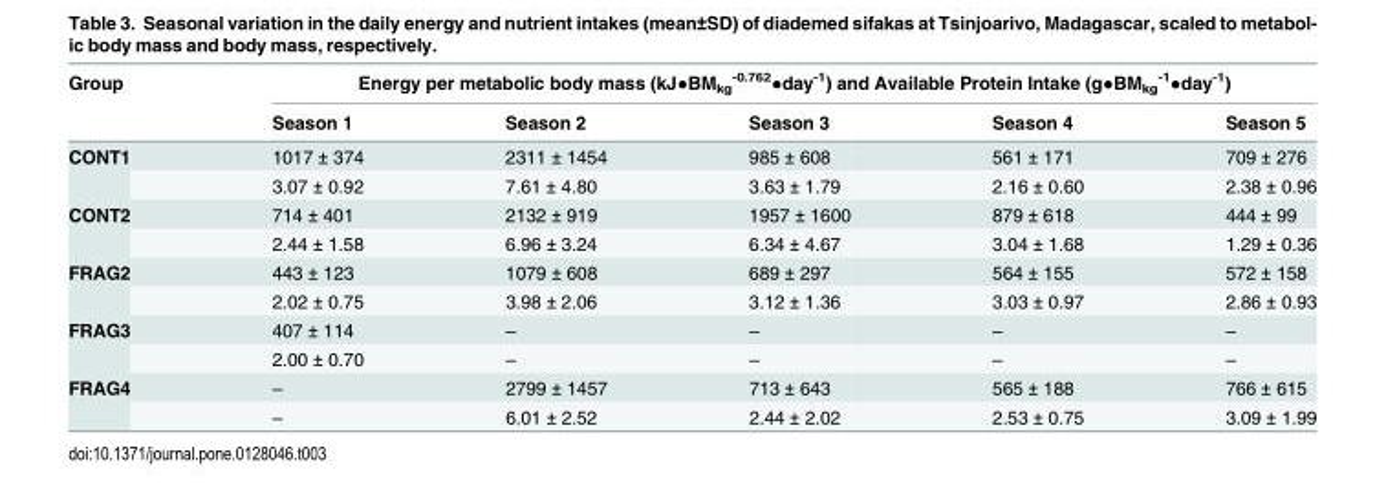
<table><thead><tr><td rowspan="2">Group</td><td colspan="5">Energy per metabolic body mass (kJ●BM<sub>kg</sub> <sup>-0.762</sup>●day<sup>-1</sup>) and Available Protein Intake (g●BM<sub>kg</sub> <sup>-1</sup>●day<sup>-1</sup>)</td></tr><tr><td>Season 1</td><td>Season 2</td><td>Season 3</td><td>Season 4</td><td>Season 5</td></tr></thead><tbody><tr><td rowspan="2">CONT1</td><td>1017 ± 374</td><td>2311 ± 1454</td><td>985 ± 608</td><td>561 ± 171</td><td>709 ± 276</td></tr><tr><td>3.07 ± 0.92</td><td>7.61 ± 4.80</td><td>3.63 ± 1.79</td><td>2.16 ± 0.60</td><td>2.38 ± 0.96</td></tr><tr><td rowspan="2">CONT2</td><td>714 ± 401</td><td>2132 ± 919</td><td>1957 ± 1600</td><td>879 ± 618</td><td>444 ± 99</td></tr><tr><td>2.44 ± 1.58</td><td>6.96 ± 3.24</td><td>6.34 ± 4.67</td><td>3.04 ± 1.68</td><td>1.29 ± 0.36</td></tr><tr><td rowspan="2">FRAG2</td><td>443 ± 123</td><td>1079 ± 608</td><td>689 ± 297</td><td>564 ± 155</td><td>572 ± 158</td></tr><tr><td>2.02 ± 0.75</td><td>3.98 ± 2.06</td><td>3.12 ± 1.36</td><td>3.03 ± 0.97</td><td>2.86 ± 0.93</td></tr><tr><td rowspan="2">FRAG3</td><td>407 ± 114</td><td>–</td><td>–</td><td>–</td><td>–</td></tr><tr><td>2.00 ± 0.70</td><td>–</td><td>–</td><td>–</td><td>–</td></tr><tr><td rowspan="2">FRAG4</td><td>–</td><td>2799 ± 1457</td><td>713 ± 643</td><td>565 ± 188</td><td>766 ± 615</td></tr><tr><td>–</td><td>6.01 ± 2.52</td><td>2.44 ± 2.02</td><td>2.53 ± 0.75</td><td>3.09 ± 1.99</td></tr></tbody></table>